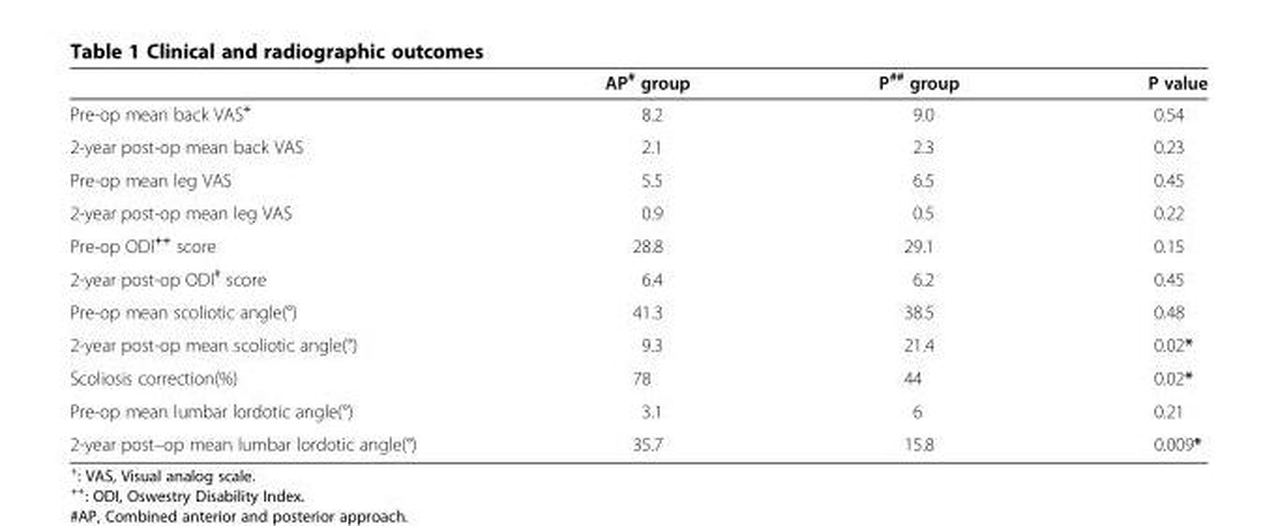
<table><thead><tr><td></td><td>AP<sup>#</sup> group</td><td>P<sup>##</sup> group</td><td>P value</td></tr></thead><tbody><tr><td>Pre-op mean back VAS<sup>+</sup></td><td>8.2</td><td>9.0</td><td>0.54</td></tr><tr><td>2-year post-op mean back VAS</td><td>2.1</td><td>2.3</td><td>0.23</td></tr><tr><td>Pre-op mean leg VAS</td><td>5.5</td><td>6.5</td><td>0.45</td></tr><tr><td>2-year post-op mean leg VAS</td><td>0.9</td><td>0.5</td><td>0.22</td></tr><tr><td>Pre-op ODI<sup>++</sup> score</td><td>28.8</td><td>29.1</td><td>0.15</td></tr><tr><td>2-year post-op ODI<sup>#</sup> score</td><td>6.4</td><td>6.2</td><td>0.45</td></tr><tr><td>Pre-op mean scoliotic angle(°)</td><td>41.3</td><td>38.5</td><td>0.48</td></tr><tr><td>2-year post-op mean scoliotic angle(°)</td><td>9.3</td><td>21.4</td><td>0.02*</td></tr><tr><td>Scoliosis correction(%)</td><td>78</td><td>44</td><td>0.02*</td></tr><tr><td>Pre-op mean lumbar lordotic angle(°)</td><td>3.1</td><td>6</td><td>0.21</td></tr><tr><td>2-year post–op mean lumbar lordotic angle(°)</td><td>35.7</td><td>15.8</td><td>0.009*</td></tr></tbody></table>